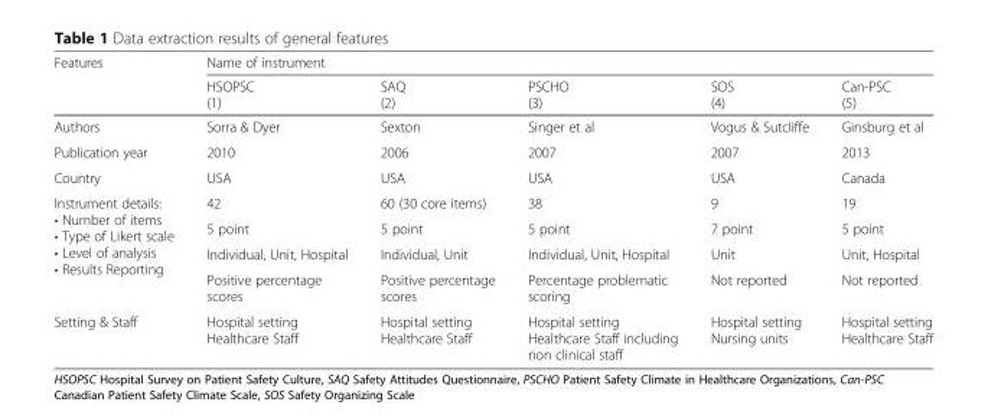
<table><thead><tr><td rowspan="2">Features</td><td colspan="5">Name of instrument</td></tr><tr><td>HSOPSC (1)</td><td>SAQ (2)</td><td>PSCHO (3)</td><td>SOS (4)</td><td>Can-PSC (5)</td></tr></thead><tbody><tr><td>Authors</td><td>Sorra &amp; Dyer</td><td>Sexton</td><td>Singer et al</td><td>Vogus &amp; Sutcliffe</td><td>Ginsburg et al</td></tr><tr><td>Publication year</td><td>2010</td><td>2006</td><td>2007</td><td>2007</td><td>2013</td></tr><tr><td>Country</td><td>USA</td><td>USA</td><td>USA</td><td>USA</td><td>Canada</td></tr><tr><td rowspan="4">Instrument details: • Number of items • Type of Likert scale • Level of analysis • Results Reporting</td><td>42</td><td>60 (30 core items)</td><td>38</td><td>9</td><td>19</td></tr><tr><td>5 point</td><td>5 point</td><td>5 point</td><td>7 point</td><td>5 point</td></tr><tr><td>Individual, Unit, Hospital</td><td>Individual, Unit</td><td>Individual, Unit, Hospital</td><td>Unit</td><td>Unit, Hospital</td></tr><tr><td>Positive percentage scores</td><td>Positive percentage scores</td><td>Percentage problematic scoring</td><td>Not reported</td><td>Not reported</td></tr><tr><td>Setting &amp; Staff</td><td>Hospital setting Healthcare Staff</td><td>Hospital setting Healthcare Staff</td><td>Hospital setting Healthcare Staff including non clinical staff</td><td>Hospital setting Nursing units</td><td>Hospital setting Healthcare Staff</td></tr></tbody></table>